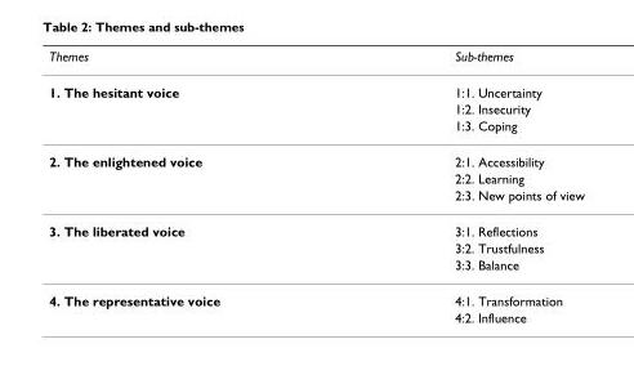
<table><thead><tr><td>Themes</td><td>Sub-themes</td></tr></thead><tbody><tr><td rowspan="3">1. The hesitant voice</td><td>1:1. Uncertainty</td></tr><tr><td>1:2. Insecurity</td></tr><tr><td>1:3. Coping</td></tr><tr><td rowspan="3">2. The enlightened voice</td><td>2:1. Accessibility</td></tr><tr><td>2:2. Learning</td></tr><tr><td>2:3. New points of view</td></tr><tr><td rowspan="3">3. The liberated voice</td><td>3:1. Reflections</td></tr><tr><td>3:2. Trustfulness</td></tr><tr><td>3:3. Balance</td></tr><tr><td rowspan="2">4. The representative voice</td><td>4:1. Transformation</td></tr><tr><td>4:2. Influence</td></tr></tbody></table>